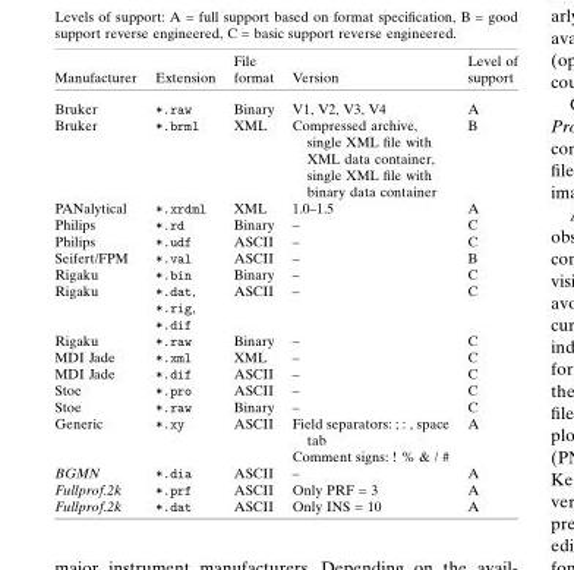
<table><thead><tr><td>Manufacturer</td><td>Extension</td><td>File format</td><td>Version</td><td>Level of support</td></tr></thead><tbody><tr><td>Bruker</td><td>*.raw</td><td>Binary</td><td>V1, V2, V3, V4</td><td>A</td></tr><tr><td>Bruker</td><td>*.brml</td><td>XML</td><td>Compressed archive, single XML file with XML data container, single XML file with binary data container</td><td>B</td></tr><tr><td>PANalytical</td><td>*.xrdml</td><td>XML</td><td>1.0–1.5</td><td>A</td></tr><tr><td>Philips</td><td>*.rd</td><td>Binary</td><td>–</td><td>C</td></tr><tr><td>Philips</td><td>*.udf</td><td>ASCII</td><td>–</td><td>C</td></tr><tr><td>Seifert/FPM</td><td>*.val</td><td>ASCII</td><td>–</td><td>B</td></tr><tr><td>Rigaku</td><td>*.bin</td><td>Binary</td><td>–</td><td>C</td></tr><tr><td>Rigaku</td><td>*.dat, *.rig, *.dif</td><td>ASCII</td><td>–</td><td>C</td></tr><tr><td>Rigaku</td><td>*.raw</td><td>Binary</td><td>–</td><td>C</td></tr><tr><td>MDI Jade</td><td>*.xml</td><td>XML</td><td>–</td><td>C</td></tr><tr><td>MDI Jade</td><td>*.dif</td><td>ASCII</td><td>–</td><td>C</td></tr><tr><td>Stoe</td><td>*.pro</td><td>ASCII</td><td>–</td><td>C</td></tr><tr><td>Stoe</td><td>*.raw</td><td>Binary</td><td>–</td><td>C</td></tr><tr><td rowspan="2">Generic</td><td rowspan="2">*.xy</td><td rowspan="2">ASCII</td><td>Field separators: ; : , space tab</td><td rowspan="2">A</td></tr><tr><td>Comment signs: ! % &amp; / #</td></tr><tr><td>BGMN</td><td>*.dia</td><td>ASCII</td><td>–</td><td>A</td></tr><tr><td>Fullprof.2k</td><td>*.prf</td><td>ASCII</td><td>Only PRF = 3</td><td>A</td></tr><tr><td>Fullprof.2k</td><td>*.dat</td><td>ASCII</td><td>Only INS = 10</td><td>A</td></tr></tbody></table>